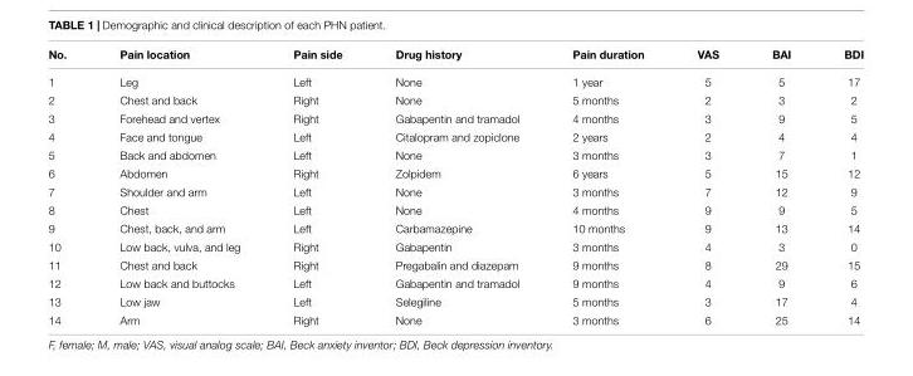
<table><thead><tr><td>No.</td><td>Pain location</td><td>Pain side</td><td>Drug history</td><td>Pain duration</td><td>VAS</td><td>BAI</td><td>BDI</td></tr></thead><tbody><tr><td>1</td><td>Leg</td><td>Left</td><td>None</td><td>1 year</td><td>5</td><td>5</td><td>17</td></tr><tr><td>2</td><td>Chest and back</td><td>Right</td><td>None</td><td>5 months</td><td>2</td><td>3</td><td>2</td></tr><tr><td>3</td><td>Forehead and vertex</td><td>Right</td><td>Gabapentin and tramadol</td><td>4 months</td><td>3</td><td>9</td><td>5</td></tr><tr><td>4</td><td>Face and tongue</td><td>Left</td><td>Citalopram and zopiclone</td><td>2 years</td><td>2</td><td>4</td><td>4</td></tr><tr><td>5</td><td>Back and abdomen</td><td>Left</td><td>None</td><td>3 months</td><td>3</td><td>7</td><td>1</td></tr><tr><td>6</td><td>Abdomen</td><td>Right</td><td>Zolpidem</td><td>6 years</td><td>5</td><td>15</td><td>12</td></tr><tr><td>7</td><td>Shoulder and arm</td><td>Left</td><td>None</td><td>3 months</td><td>7</td><td>12</td><td>9</td></tr><tr><td>8</td><td>Chest</td><td>Left</td><td>None</td><td>4 months</td><td>9</td><td>9</td><td>5</td></tr><tr><td>9</td><td>Chest, back, and arm</td><td>Left</td><td>Carbamazepine</td><td>10 months</td><td>9</td><td>13</td><td>14</td></tr><tr><td>10</td><td>Low back, vulva, and leg</td><td>Right</td><td>Gabapentin</td><td>3 months</td><td>4</td><td>3</td><td>0</td></tr><tr><td>11</td><td>Chest and back</td><td>Right</td><td>Pregabalin and diazepam</td><td>9 months</td><td>8</td><td>29</td><td>15</td></tr><tr><td>12</td><td>Low back and buttocks</td><td>Left</td><td>Gabapentin and tramadol</td><td>9 months</td><td>4</td><td>9</td><td>6</td></tr><tr><td>13</td><td>Low jaw</td><td>Left</td><td>Selegiline</td><td>5 months</td><td>3</td><td>17</td><td>4</td></tr><tr><td>14</td><td>Arm</td><td>Right</td><td>None</td><td>3 months</td><td>6</td><td>25</td><td>14</td></tr></tbody></table>